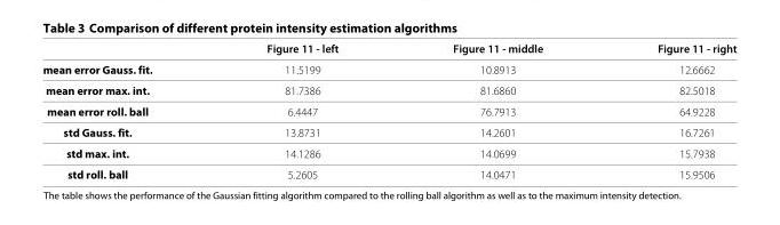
<table><thead><tr><td></td><td>Figure 11 - left</td><td>Figure 11 - middle</td><td>Figure 11 - right</td></tr></thead><tbody><tr><td>mean error Gauss. fit.</td><td>11.5199</td><td>10.8913</td><td>12.6662</td></tr><tr><td>mean error max. int.</td><td>81.7386</td><td>81.6860</td><td>82.5018</td></tr><tr><td>mean error roll. ball</td><td>6.4447</td><td>76.7913</td><td>64.9228</td></tr><tr><td>std Gauss. fit.</td><td>13.8731</td><td>14.2601</td><td>16.7261</td></tr><tr><td>std max. int.</td><td>14.1286</td><td>14.0699</td><td>15.7938</td></tr><tr><td>std roll. ball</td><td>5.2605</td><td>14.0471</td><td>15.9506</td></tr></tbody></table>